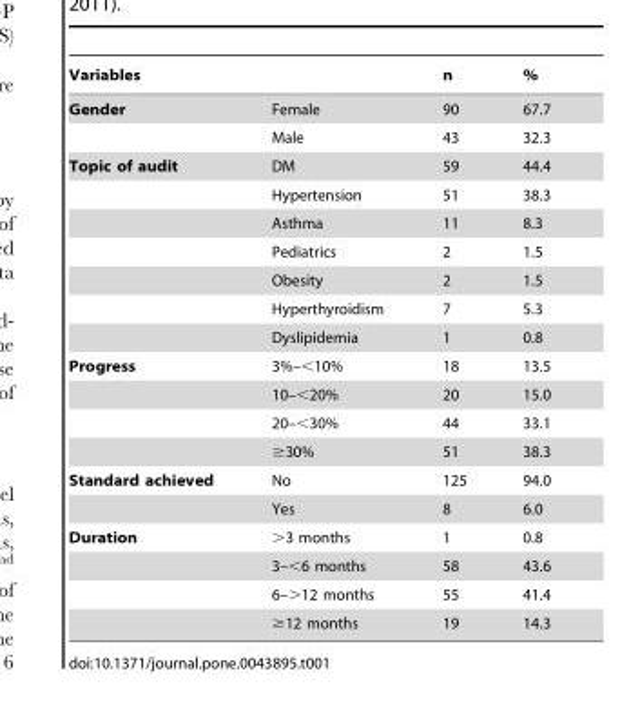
<table><thead><tr><td>Variables</td><td></td><td>n</td><td>%</td></tr></thead><tbody><tr><td rowspan="2">Gender</td><td>Female</td><td>90</td><td>67.7</td></tr><tr><td>Male</td><td>43</td><td>32.3</td></tr><tr><td rowspan="7">Topic of audit</td><td>DM</td><td>59</td><td>44.4</td></tr><tr><td>Hypertension</td><td>51</td><td>38.3</td></tr><tr><td>Asthma</td><td>11</td><td>8.3</td></tr><tr><td>Pediatrics</td><td>2</td><td>1.5</td></tr><tr><td>Obesity</td><td>2</td><td>1.5</td></tr><tr><td>Hyperthyroidism</td><td>7</td><td>5.3</td></tr><tr><td>Dyslipidemia</td><td>1</td><td>0.8</td></tr><tr><td rowspan="4">Progress</td><td>3%–&lt;10%</td><td>18</td><td>13.5</td></tr><tr><td>10–&lt;20%</td><td>20</td><td>15.0</td></tr><tr><td>20–&lt;30%</td><td>44</td><td>33.1</td></tr><tr><td>≥30%</td><td>51</td><td>38.3</td></tr><tr><td rowspan="2">Standard achieved</td><td>No</td><td>125</td><td>94.0</td></tr><tr><td>Yes</td><td>8</td><td>6.0</td></tr><tr><td rowspan="4">Duration</td><td>&gt;3 months</td><td>1</td><td>0.8</td></tr><tr><td>3–&lt;6 months</td><td>58</td><td>43.6</td></tr><tr><td>6–&gt;12 months</td><td>55</td><td>41.4</td></tr><tr><td>≥12 months</td><td>19</td><td>14.3</td></tr></tbody></table>